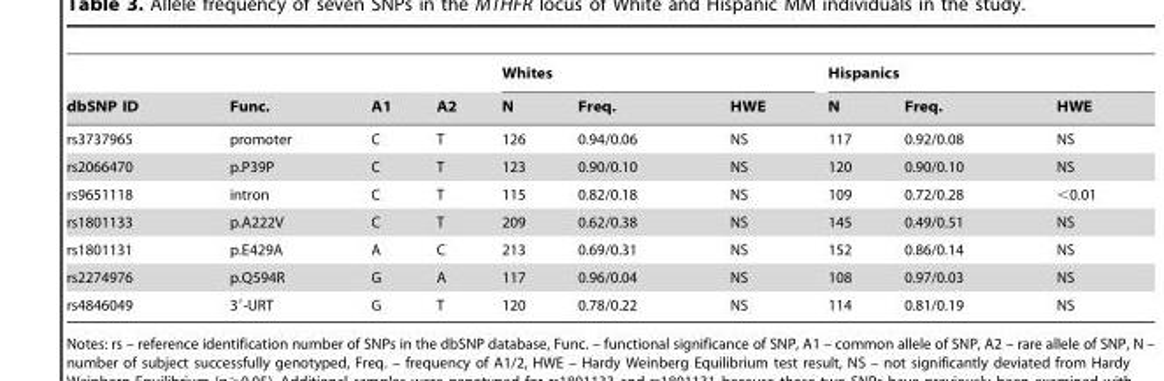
<table><thead><tr><td rowspan="2">dbSNP ID</td><td rowspan="2">Func.</td><td rowspan="2">A1</td><td rowspan="2">A2</td><td colspan="3">Whites</td><td colspan="3">Hispanics</td></tr><tr><td>N</td><td>Freq.</td><td>HWE</td><td>N</td><td>Freq.</td><td>HWE</td></tr></thead><tbody><tr><td>rs3737965</td><td>promoter</td><td>C</td><td>T</td><td>126</td><td>0.94/0.06</td><td>NS</td><td>117</td><td>0.92/0.08</td><td>NS</td></tr><tr><td>rs2066470</td><td>p.P39P</td><td>C</td><td>T</td><td>123</td><td>0.90/0.10</td><td>NS</td><td>120</td><td>0.90/0.10</td><td>NS</td></tr><tr><td>rs9651118</td><td>intron</td><td>C</td><td>T</td><td>115</td><td>0.82/0.18</td><td>NS</td><td>109</td><td>0.72/0.28</td><td>&lt;0.01</td></tr><tr><td>rs1801133</td><td>p.A222V</td><td>C</td><td>T</td><td>209</td><td>0.62/0.38</td><td>NS</td><td>145</td><td>0.49/0.51</td><td>NS</td></tr><tr><td>rs1801131</td><td>p.E429A</td><td>A</td><td>C</td><td>213</td><td>0.69/0.31</td><td>NS</td><td>152</td><td>0.86/0.14</td><td>NS</td></tr><tr><td>rs2274976</td><td>p.Q594R</td><td>G</td><td>A</td><td>117</td><td>0.96/0.04</td><td>NS</td><td>108</td><td>0.97/0.03</td><td>NS</td></tr><tr><td>rs4846049</td><td>3′-URT</td><td>G</td><td>T</td><td>120</td><td>0.78/0.22</td><td>NS</td><td>114</td><td>0.81/0.19</td><td>NS</td></tr></tbody></table>